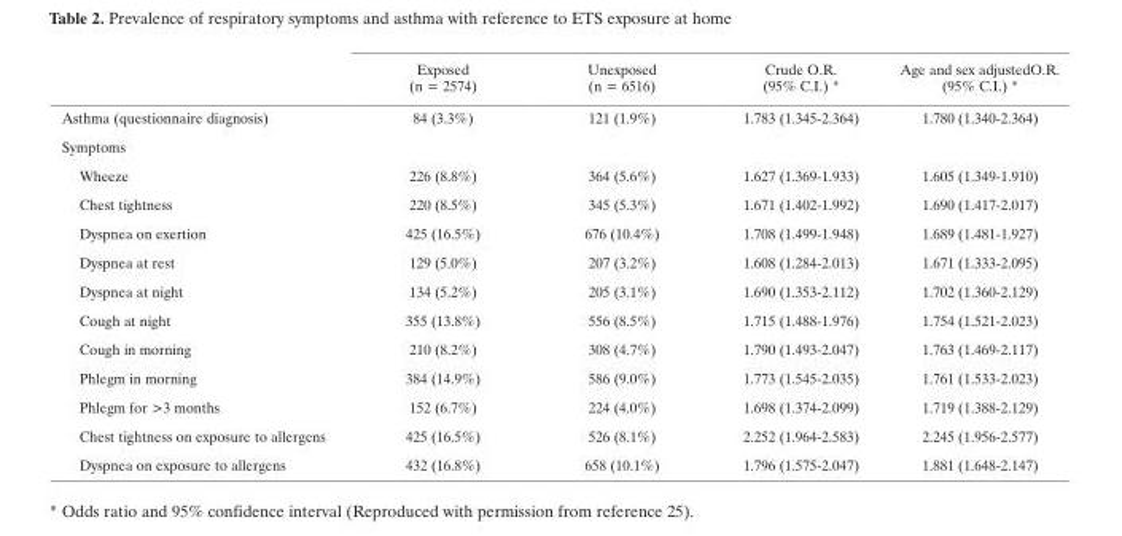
<table><thead><tr><td></td><td>Exposed (n = 2574)</td><td>Unexposed (n = 6516)</td><td>Crude O.R. (95% C.I.) *</td><td>Age and sex adjustedO.R. (95% C.I.) *</td></tr></thead><tbody><tr><td>Asthma (questionnaire diagnosis)</td><td>84 (3.3%)</td><td>121 (1.9%)</td><td>1.783 (1.345-2.364)</td><td>1.780 (1.340-2.364)</td></tr><tr><td colspan="5">Symptoms</td></tr><tr><td>Wheeze</td><td>226 (8.8%)</td><td>364 (5.6%)</td><td>1.627 (1.369-1.933)</td><td>1.605 (1.349-1.910)</td></tr><tr><td>Chest tightness</td><td>220 (8.5%)</td><td>345 (5.3%)</td><td>1.671 (1.402-1.992)</td><td>1.690 (1.417-2.017)</td></tr><tr><td>Dyspnea on exertion</td><td>425 (16.5%)</td><td>676 (10.4%)</td><td>1.708 (1.499-1.948)</td><td>1.689 (1.481-1.927)</td></tr><tr><td>Dyspnea at rest</td><td>129 (5.0%)</td><td>207 (3.2%)</td><td>1.608 (1.284-2.013)</td><td>1.671 (1.333-2.095)</td></tr><tr><td>Dyspnea at night</td><td>134 (5.2%)</td><td>205 (3.1%)</td><td>1.690 (1.353-2.112)</td><td>1.702 (1.360-2.129)</td></tr><tr><td>Cough at night</td><td>355 (13.8%)</td><td>556 (8.5%)</td><td>1.715 (1.488-1.976)</td><td>1.754 (1.521-2.023)</td></tr><tr><td>Cough in morning</td><td>210 (8.2%)</td><td>308 (4.7%)</td><td>1.790 (1.493-2.047)</td><td>1.763 (1.469-2.117)</td></tr><tr><td>Phlegm in morning</td><td>384 (14.9%)</td><td>586 (9.0%)</td><td>1.773 (1.545-2.035)</td><td>1.761 (1.533-2.023)</td></tr><tr><td>Phlegm for &gt;3 months</td><td>152 (6.7%)</td><td>224 (4.0%)</td><td>1.698 (1.374-2.099)</td><td>1.719 (1.388-2.129)</td></tr><tr><td>Chest tightness on exposure to allergens</td><td>425 (16.5%)</td><td>526 (8.1%)</td><td>2.252 (1.964-2.583)</td><td>2.245 (1.956-2.577)</td></tr><tr><td>Dyspnea on exposure to allergens</td><td>432 (16.8%)</td><td>658 (10.1%)</td><td>1.796 (1.575-2.047)</td><td>1.881 (1.648-2.147)</td></tr></tbody></table>